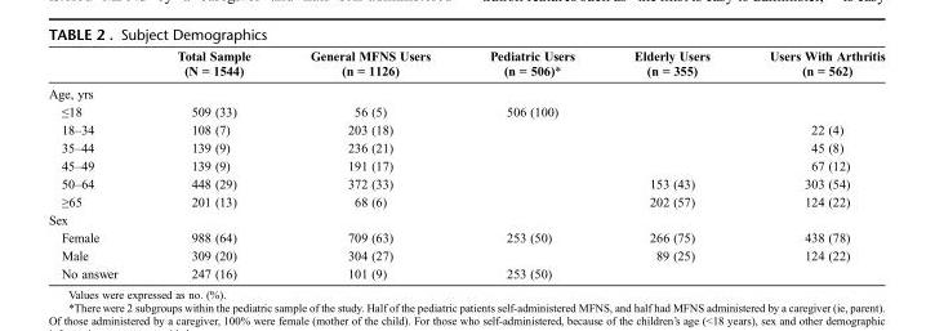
<table><thead><tr><td></td><td>Total Sample (N = 1544)</td><td>General MFNS Users (n = 1126)</td><td>Pediatric Users (n = 506)*</td><td>Elderly Users (n = 355)</td><td>Users With Arthritis (n = 562)</td></tr></thead><tbody><tr><td colspan="6">Age, yrs</td></tr><tr><td>≤18</td><td>509 (33)</td><td>56 (5)</td><td>506 (100)</td><td></td><td></td></tr><tr><td>18Y34</td><td>108 (7)</td><td>203 (18)</td><td></td><td></td><td>22 (4)</td></tr><tr><td>35Y44</td><td>139 (9)</td><td>236 (21)</td><td></td><td></td><td>45 (8)</td></tr><tr><td>45Y49</td><td>139 (9)</td><td>191 (17)</td><td></td><td></td><td>67 (12)</td></tr><tr><td>50Y64</td><td>448 (29)</td><td>372 (33)</td><td></td><td>153 (43)</td><td>303 (54)</td></tr><tr><td>≥65</td><td>201 (13)</td><td>68 (6)</td><td></td><td>202 (57)</td><td>124 (22)</td></tr><tr><td colspan="6">Sex</td></tr><tr><td>Female</td><td>988 (64)</td><td>709 (63)</td><td>253 (50)</td><td>266 (75)</td><td>438 (78)</td></tr><tr><td>Male</td><td>309 (20)</td><td>304 (27)</td><td></td><td>89 (25)</td><td>124 (22)</td></tr><tr><td>No answer</td><td>247 (16)</td><td>101 (9)</td><td>253 (50)</td><td></td><td></td></tr></tbody></table>